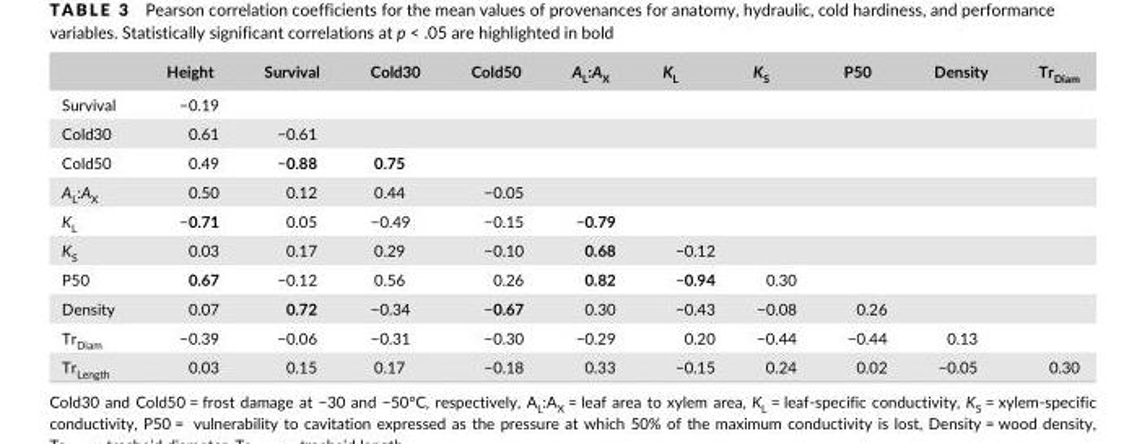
<table><thead><tr><td></td><td>Height</td><td>Survival</td><td>Cold30</td><td>Cold50</td><td>A<sub>L</sub>:A<sub>X</sub></td><td>K<sub>L</sub></td><td>K<sub>S</sub></td><td>P50</td><td>Density</td><td>Tr<sub>Diam</sub></td></tr></thead><tbody><tr><td>Survival</td><td>−0.19</td><td></td><td></td><td></td><td></td><td></td><td></td><td></td><td></td><td></td></tr><tr><td>Cold30</td><td>0.61</td><td>−0.61</td><td></td><td></td><td></td><td></td><td></td><td></td><td></td><td></td></tr><tr><td>Cold50</td><td>0.49</td><td>−0.88</td><td>0.75</td><td></td><td></td><td></td><td></td><td></td><td></td><td></td></tr><tr><td>A<sub>L</sub>:A<sub>X</sub></td><td>0.50</td><td>0.12</td><td>0.44</td><td>−0.05</td><td></td><td></td><td></td><td></td><td></td><td></td></tr><tr><td>K<sub>L</sub></td><td>−0.71</td><td>0.05</td><td>−0.49</td><td>−0.15</td><td>−0.79</td><td></td><td></td><td></td><td></td><td></td></tr><tr><td>K<sub>S</sub></td><td>0.03</td><td>0.17</td><td>0.29</td><td>−0.10</td><td>0.68</td><td>−0.12</td><td></td><td></td><td></td><td></td></tr><tr><td>P50</td><td>0.67</td><td>−0.12</td><td>0.56</td><td>0.26</td><td>0.82</td><td>−0.94</td><td>0.30</td><td></td><td></td><td></td></tr><tr><td>Density</td><td>0.07</td><td>0.72</td><td>−0.34</td><td>−0.67</td><td>0.30</td><td>−0.43</td><td>−0.08</td><td>0.26</td><td></td><td></td></tr><tr><td>Tr<sub>Diam</sub></td><td>−0.39</td><td>−0.06</td><td>−0.31</td><td>−0.30</td><td>−0.29</td><td>0.20</td><td>−0.44</td><td>−0.44</td><td>0.13</td><td></td></tr><tr><td>Tr<sub>Length</sub></td><td>0.03</td><td>0.15</td><td>0.17</td><td>−0.18</td><td>0.33</td><td>−0.15</td><td>0.24</td><td>0.02</td><td>−0.05</td><td>0.30</td></tr></tbody></table>